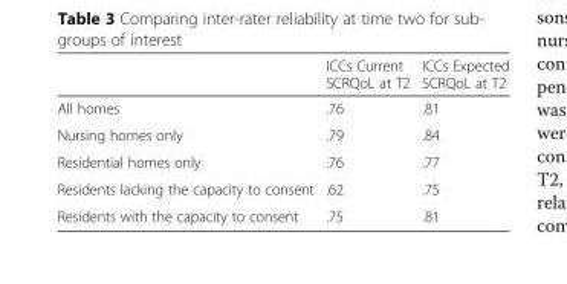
<table><thead><tr><td></td><td>ICCs Current SCRQoL at T2</td><td>ICCs Expected SCRQoL at T2</td></tr></thead><tbody><tr><td>All homes</td><td>.76</td><td>.81</td></tr><tr><td>Nursing homes only</td><td>.79</td><td>.84</td></tr><tr><td>Residential homes only</td><td>.76</td><td>.77</td></tr><tr><td>Residents lacking the capacity to consent</td><td>.62</td><td>.75</td></tr><tr><td>Residents with the capacity to consent</td><td>.75</td><td>.81</td></tr></tbody></table>